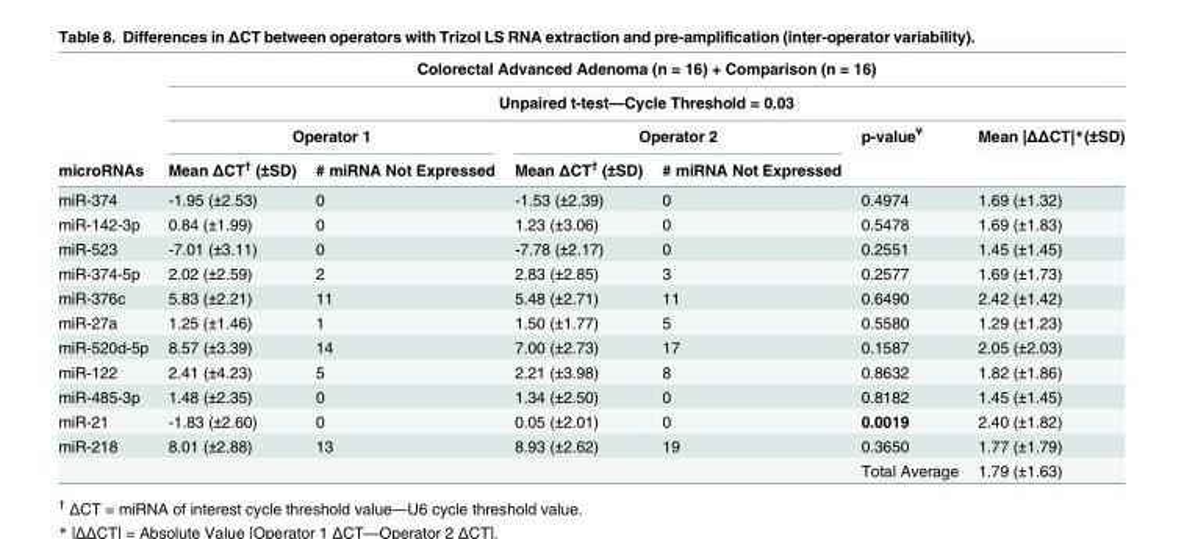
<table><thead><tr><td rowspan="4">microRNAs</td><td rowspan="2" colspan="6">Colorectal Advanced Adenoma (n = 16) + Comparison (n = 16) Unpaired t-test—Cycle Threshold = 0.03</td></tr><tr></tr><tr><td colspan="2">Operator 1</td><td colspan="2">Operator 2</td><td rowspan="2">p-value<sup>¥</sup></td><td rowspan="2">Mean |ΔΔCT|*(±SD)</td></tr><tr><td>Mean ΔCT<sup>†</sup> (±SD)</td><td># miRNA Not Expressed</td><td>Mean ΔCT<sup>†</sup> (±SD)</td><td># miRNA Not Expressed</td></tr></thead><tbody><tr><td>miR-374</td><td>-1.95 (±2.53)</td><td>0</td><td>-1.53 (±2.39)</td><td>0</td><td>0.4974</td><td>1.69 (±1.32)</td></tr><tr><td>miR-142-3p</td><td>0.84 (±1.99)</td><td>0</td><td>1.23 (±3.06)</td><td>0</td><td>0.5478</td><td>1.69 (±1.83)</td></tr><tr><td>miR-523</td><td>-7.01 (±3.11)</td><td>0</td><td>-7.78 (±2.17)</td><td>0</td><td>0.2551</td><td>1.45 (±1.45)</td></tr><tr><td>miR-374-5p</td><td>2.02 (±2.59)</td><td>2</td><td>2.83 (±2.85)</td><td>3</td><td>0.2577</td><td>1.69 (±1.73)</td></tr><tr><td>miR-376c</td><td>5.83 (±2.21)</td><td>11</td><td>5.48 (±2.71)</td><td>11</td><td>0.6490</td><td>2.42 (±1.42)</td></tr><tr><td>miR-27a</td><td>1.25 (±1.46)</td><td>1</td><td>1.50 (±1.77)</td><td>5</td><td>0.5580</td><td>1.29 (±1.23)</td></tr><tr><td>miR-520d-5p</td><td>8.57 (±3.39)</td><td>14</td><td>7.00 (±2.73)</td><td>17</td><td>0.1587</td><td>2.05 (±2.03)</td></tr><tr><td>miR-122</td><td>2.41 (±4.23)</td><td>5</td><td>2.21 (±3.98)</td><td>8</td><td>0.8632</td><td>1.82 (±1.86)</td></tr><tr><td>miR-485-3p</td><td>1.48 (±2.35)</td><td>0</td><td>1.34 (±2.50)</td><td>0</td><td>0.8182</td><td>1.45 (±1.45)</td></tr><tr><td>miR-21</td><td>-1.83 (±2.60)</td><td>0</td><td>0.05 (±2.01)</td><td>0</td><td>0.0019</td><td>2.40 (±1.82)</td></tr><tr><td>miR-218</td><td>8.01 (±2.88)</td><td>13</td><td>8.93 (±2.62)</td><td>19</td><td>0.3650</td><td>1.77 (±1.79)</td></tr><tr><td colspan="5"></td><td>Total Average</td><td>1.79 (±1.63)</td></tr></tbody></table>